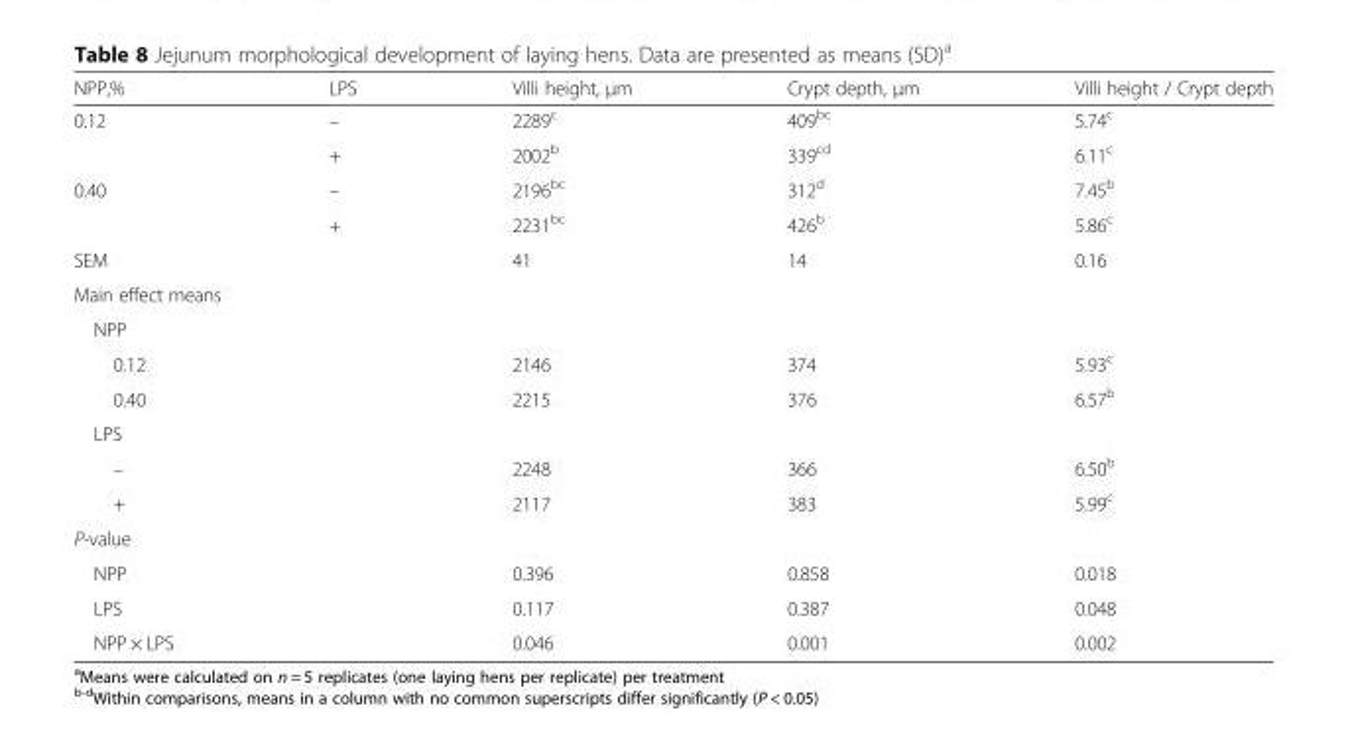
<table><thead><tr><td>NPP,%</td><td>LPS</td><td>Villi height, μm</td><td>Crypt depth, μm</td><td>Villi height / Crypt depth</td></tr></thead><tbody><tr><td rowspan="2">0.12</td><td>–</td><td>2289<sup>c</sup></td><td>409<sup>bc</sup></td><td>5.74<sup>c</sup></td></tr><tr><td>+</td><td>2002<sup>b</sup></td><td>339<sup>cd</sup></td><td>6.11<sup>c</sup></td></tr><tr><td rowspan="2">0.40</td><td>–</td><td>2196<sup>bc</sup></td><td>312<sup>d</sup></td><td>7.45<sup>b</sup></td></tr><tr><td>+</td><td>2231<sup>bc</sup></td><td>426<sup>b</sup></td><td>5.86<sup>c</sup></td></tr><tr><td>SEM</td><td></td><td>41</td><td>14</td><td>0.16</td></tr><tr><td colspan="5">Main effect means</td></tr><tr><td colspan="5">NPP</td></tr><tr><td>0.12</td><td></td><td>2146</td><td>374</td><td>5.93<sup>c</sup></td></tr><tr><td>0.40</td><td></td><td>2215</td><td>376</td><td>6.57<sup>b</sup></td></tr><tr><td colspan="5">LPS</td></tr><tr><td>–</td><td></td><td>2248</td><td>366</td><td>6.50<sup>b</sup></td></tr><tr><td>+</td><td></td><td>2117</td><td>383</td><td>5.99<sup>c</sup></td></tr><tr><td colspan="5">P-value</td></tr><tr><td>NPP</td><td></td><td>0.396</td><td>0.858</td><td>0.018</td></tr><tr><td>LPS</td><td></td><td>0.117</td><td>0.387</td><td>0.048</td></tr><tr><td>NPP × LPS</td><td></td><td>0.046</td><td>0.001</td><td>0.002</td></tr></tbody></table>